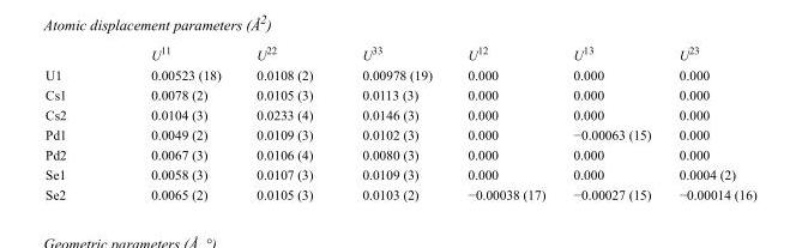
<table><thead><tr><td></td><td>U<sup>11</sup></td><td>U<sup>22</sup></td><td>U<sup>33</sup></td><td>U<sup>12</sup></td><td>U<sup>13</sup></td><td>U<sup>23</sup></td></tr></thead><tbody><tr><td>U1</td><td>0.00523 (18)</td><td>0.0108 (2)</td><td>0.00978 (19)</td><td>0.000</td><td>0.000</td><td>0.000</td></tr><tr><td>Cs1</td><td>0.0078 (2)</td><td>0.0105 (3)</td><td>0.0113 (3)</td><td>0.000</td><td>0.000</td><td>0.000</td></tr><tr><td>Cs2</td><td>0.0104 (3)</td><td>0.0233 (4)</td><td>0.0146 (3)</td><td>0.000</td><td>0.000</td><td>0.000</td></tr><tr><td>Pd1</td><td>0.0049 (2)</td><td>0.0109 (3)</td><td>0.0102 (3)</td><td>0.000</td><td>−0.00063 (15)</td><td>0.000</td></tr><tr><td>Pd2</td><td>0.0067 (3)</td><td>0.0106 (4)</td><td>0.0080 (3)</td><td>0.000</td><td>0.000</td><td>0.000</td></tr><tr><td>Se1</td><td>0.0058 (3)</td><td>0.0107 (3)</td><td>0.0109 (3)</td><td>0.000</td><td>0.000</td><td>0.0004 (2)</td></tr><tr><td>Se2</td><td>0.0065 (2)</td><td>0.0105 (3)</td><td>0.0103 (2)</td><td>−0.00038 (17)</td><td>−0.00027 (15)</td><td>−0.00014 (16)</td></tr></tbody></table>